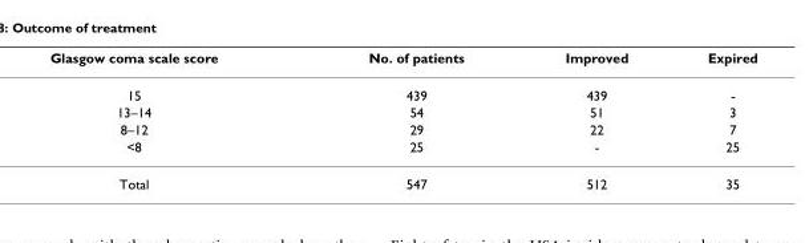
<table><thead><tr><td>Glasgow coma scale score</td><td>No. of patients</td><td>Improved</td><td>Expired</td></tr></thead><tbody><tr><td>15</td><td>439</td><td>439</td><td>-</td></tr><tr><td>13–14</td><td>54</td><td>51</td><td>3</td></tr><tr><td>8–12</td><td>29</td><td>22</td><td>7</td></tr><tr><td>&lt;8</td><td>25</td><td>-</td><td>25</td></tr><tr><td>Total</td><td>547</td><td>512</td><td>35</td></tr></tbody></table>